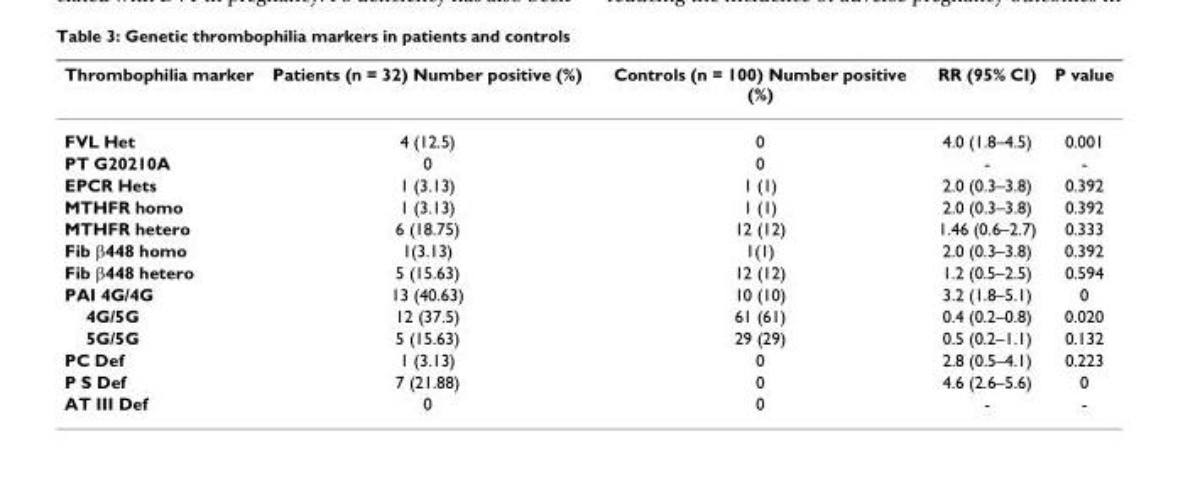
<table><thead><tr><td>Thrombophilia marker</td><td>Patients (n = 32) Number positive (%)</td><td>Controls (n = 100) Number positive (%)</td><td>RR (95% CI)</td><td>P value</td></tr></thead><tbody><tr><td>FVL Het</td><td>4 (12.5)</td><td>0</td><td>4.0 (1.8–4.5)</td><td>0.001</td></tr><tr><td>PT G20210A</td><td>0</td><td>0</td><td>-</td><td>-</td></tr><tr><td>EPCR Hets</td><td>1 (3.13)</td><td>1 (1)</td><td>2.0 (0.3–3.8)</td><td>0.392</td></tr><tr><td>MTHFR homo</td><td>1 (3.13)</td><td>1 (1)</td><td>2.0 (0.3–3.8)</td><td>0.392</td></tr><tr><td>MTHFR hetero</td><td>6 (18.75)</td><td>12 (12)</td><td>1.46 (0.6–2.7)</td><td>0.333</td></tr><tr><td>Fib β448 homo</td><td>1(3.13)</td><td>1(1)</td><td>2.0 (0.3–3.8)</td><td>0.392</td></tr><tr><td>Fib β448 hetero</td><td>5 (15.63)</td><td>12 (12)</td><td>1.2 (0.5–2.5)</td><td>0.594</td></tr><tr><td>PAI 4G/4G</td><td>13 (40.63)</td><td>10 (10)</td><td>3.2 (1.8–5.1)</td><td>0</td></tr><tr><td>4G/5G</td><td>12 (37.5)</td><td>61 (61)</td><td>0.4 (0.2–0.8)</td><td>0.020</td></tr><tr><td>5G/5G</td><td>5 (15.63)</td><td>29 (29)</td><td>0.5 (0.2–1.1)</td><td>0.132</td></tr><tr><td>PC Def</td><td>1 (3.13)</td><td>0</td><td>2.8 (0.5–4.1)</td><td>0.223</td></tr><tr><td>P S Def</td><td>7 (21.88)</td><td>0</td><td>4.6 (2.6–5.6)</td><td>0</td></tr><tr><td>AT III Def</td><td>0</td><td>0</td><td>-</td><td>-</td></tr></tbody></table>